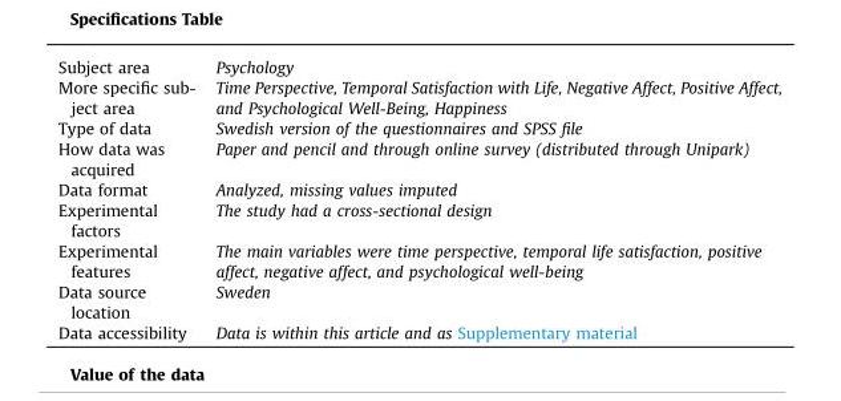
<table><tbody><tr><td>Subject area</td><td>Psychology</td></tr><tr><td>More specific sub- ject area</td><td>Time Perspective, Temporal Satisfaction with Life, Negative Affect, Positive Affect, and Psychological Well-Being, Happiness</td></tr><tr><td>Type of data</td><td>Swedish version of the questionnaires and SPSS file</td></tr><tr><td>How data was acquired</td><td>Paper and pencil and through online survey (distributed through Unipark)</td></tr><tr><td>Data format</td><td>Analyzed, missing values imputed</td></tr><tr><td>Experimental factors</td><td>The study had a cross-sectional design</td></tr><tr><td>Experimental features</td><td>The main variables were time perspective, temporal life satisfaction, positive affect, negative affect, and psychological well-being</td></tr><tr><td>Data source location</td><td>Sweden</td></tr><tr><td>Data accessibility</td><td>Data is within this article and as Supplementary material</td></tr></tbody></table>